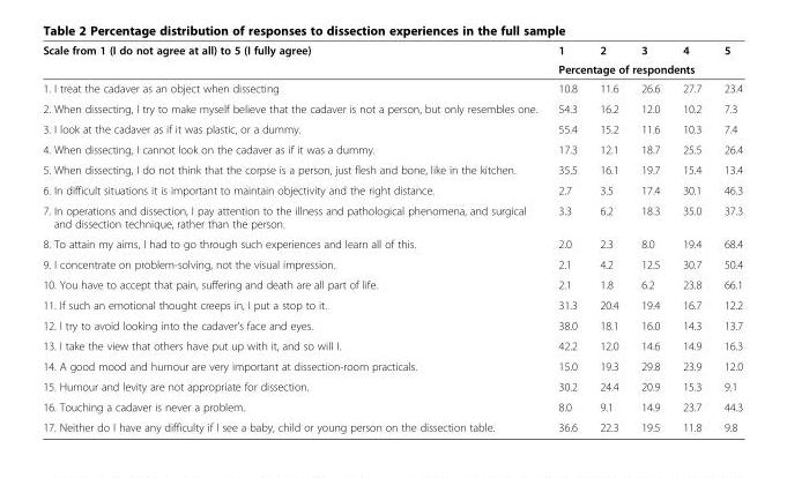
<table><thead><tr><td rowspan="2">Scale from 1 (I do not agree at all) to 5 (I fully agree)</td><td>1</td><td>2</td><td>3</td><td>4</td><td>5</td></tr><tr><td colspan="5">Percentage of respondents</td></tr></thead><tbody><tr><td>1. I treat the cadaver as an object when dissecting</td><td>10.8</td><td>11.6</td><td>26.6</td><td>27.7</td><td>23.4</td></tr><tr><td>2. When dissecting, I try to make myself believe that the cadaver is not a person, but only resembles one.</td><td>54.3</td><td>16.2</td><td>12.0</td><td>10.2</td><td>7.3</td></tr><tr><td>3. I look at the cadaver as if it was plastic, or a dummy.</td><td>55.4</td><td>15.2</td><td>11.6</td><td>10.3</td><td>7.4</td></tr><tr><td>4. When dissecting, I cannot look on the cadaver as if it was a dummy.</td><td>17.3</td><td>12.1</td><td>18.7</td><td>25.5</td><td>26.4</td></tr><tr><td>5. When dissecting, I do not think that the corpse is a person, just flesh and bone, like in the kitchen.</td><td>35.5</td><td>16.1</td><td>19.7</td><td>15.4</td><td>13.4</td></tr><tr><td>6. In difficult situations it is important to maintain objectivity and the right distance.</td><td>2.7</td><td>3.5</td><td>17.4</td><td>30.1</td><td>46.3</td></tr><tr><td>7. In operations and dissection, I pay attention to the illness and pathological phenomena, and surgical and dissection technique, rather than the person.</td><td>3.3</td><td>6.2</td><td>18.3</td><td>35.0</td><td>37.3</td></tr><tr><td>8. To attain my aims, I had to go through such experiences and learn all of this.</td><td>2.0</td><td>2.3</td><td>8.0</td><td>19.4</td><td>68.4</td></tr><tr><td>9. I concentrate on problem-solving, not the visual impression.</td><td>2.1</td><td>4.2</td><td>12.5</td><td>30.7</td><td>50.4</td></tr><tr><td>10. You have to accept that pain, suffering and death are all part of life.</td><td>2.1</td><td>1.8</td><td>6.2</td><td>23.8</td><td>66.1</td></tr><tr><td>11. If such an emotional thought creeps in, I put a stop to it.</td><td>31.3</td><td>20.4</td><td>19.4</td><td>16.7</td><td>12.2</td></tr><tr><td>12. I try to avoid looking into the cadaver’s face and eyes.</td><td>38.0</td><td>18.1</td><td>16.0</td><td>14.3</td><td>13.7</td></tr><tr><td>13. I take the view that others have put up with it, and so will I.</td><td>42.2</td><td>12.0</td><td>14.6</td><td>14.9</td><td>16.3</td></tr><tr><td>14. A good mood and humour are very important at dissection-room practicals.</td><td>15.0</td><td>19.3</td><td>29.8</td><td>23.9</td><td>12.0</td></tr><tr><td>15. Humour and levity are not appropriate for dissection.</td><td>30.2</td><td>24.4</td><td>20.9</td><td>15.3</td><td>9.1</td></tr><tr><td>16. Touching a cadaver is never a problem.</td><td>8.0</td><td>9.1</td><td>14.9</td><td>23.7</td><td>44.3</td></tr><tr><td>17. Neither do I have any difficulty if I see a baby, child or young person on the dissection table.</td><td>36.6</td><td>22.3</td><td>19.5</td><td>11.8</td><td>9.8</td></tr></tbody></table>